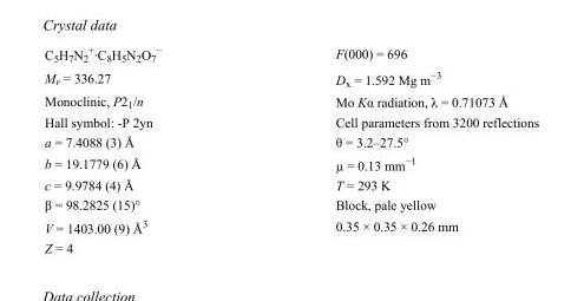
<table><tbody><tr><td>C<sub>5</sub>H<sub>7</sub>N<sub>2</sub> <sup>+</sup>·C<sub>8</sub>H<sub>5</sub>N<sub>2</sub>O<sub>7</sub> <sup>−</sup></td><td>F(000) = 696</td></tr><tr><td>M<sub>r</sub> = 336.27</td><td>D<sub>x</sub> = 1.592 Mg m<sup>−3</sup></td></tr><tr><td>Monoclinic, P2<sub>1</sub>/n</td><td>Mo Kα radiation, λ = 0.71073 Å</td></tr><tr><td>Hall symbol: -P 2yn</td><td>Cell parameters from 3200 reflections</td></tr><tr><td>a = 7.4088 (3) Å</td><td>θ = 3.2–27.5°</td></tr><tr><td>b = 19.1779 (6) Å</td><td>µ = 0.13 mm<sup>−1</sup></td></tr><tr><td>c = 9.9784 (4) Å</td><td>T = 293 K</td></tr><tr><td>β = 98.2825 (15)°</td><td>Block, pale yellow</td></tr><tr><td>V = 1403.00 (9) Å<sup>3</sup></td><td>0.35 × 0.35 × 0.26 mm</td></tr><tr><td>Z = 4</td><td></td></tr></tbody></table>